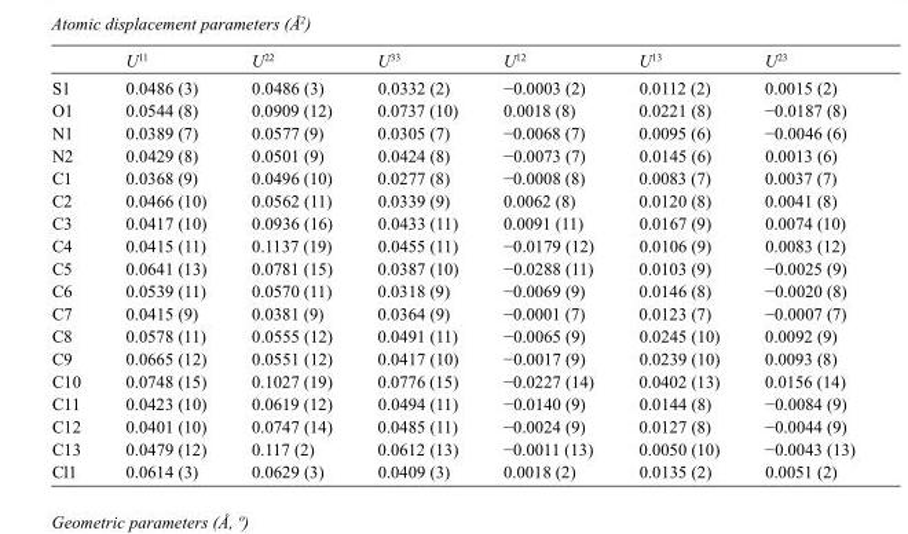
<table><thead><tr><td></td><td>U<sup>11</sup></td><td>U<sup>22</sup></td><td>U<sup>33</sup></td><td>U<sup>12</sup></td><td>U<sup>13</sup></td><td>U<sup>23</sup></td></tr></thead><tbody><tr><td>S1</td><td>0.0486 (3)</td><td>0.0486 (3)</td><td>0.0332 (2)</td><td>−0.0003 (2)</td><td>0.0112 (2)</td><td>0.0015 (2)</td></tr><tr><td>O1</td><td>0.0544 (8)</td><td>0.0909 (12)</td><td>0.0737 (10)</td><td>0.0018 (8)</td><td>0.0221 (8)</td><td>−0.0187 (8)</td></tr><tr><td>N1</td><td>0.0389 (7)</td><td>0.0577 (9)</td><td>0.0305 (7)</td><td>−0.0068 (7)</td><td>0.0095 (6)</td><td>−0.0046 (6)</td></tr><tr><td>N2</td><td>0.0429 (8)</td><td>0.0501 (9)</td><td>0.0424 (8)</td><td>−0.0073 (7)</td><td>0.0145 (6)</td><td>0.0013 (6)</td></tr><tr><td>C1</td><td>0.0368 (9)</td><td>0.0496 (10)</td><td>0.0277 (8)</td><td>−0.0008 (8)</td><td>0.0083 (7)</td><td>0.0037 (7)</td></tr><tr><td>C2</td><td>0.0466 (10)</td><td>0.0562 (11)</td><td>0.0339 (9)</td><td>0.0062 (8)</td><td>0.0120 (8)</td><td>0.0041 (8)</td></tr><tr><td>C3</td><td>0.0417 (10)</td><td>0.0936 (16)</td><td>0.0433 (11)</td><td>0.0091 (11)</td><td>0.0167 (9)</td><td>0.0074 (10)</td></tr><tr><td>C4</td><td>0.0415 (11)</td><td>0.1137 (19)</td><td>0.0455 (11)</td><td>−0.0179 (12)</td><td>0.0106 (9)</td><td>0.0083 (12)</td></tr><tr><td>C5</td><td>0.0641 (13)</td><td>0.0781 (15)</td><td>0.0387 (10)</td><td>−0.0288 (11)</td><td>0.0103 (9)</td><td>−0.0025 (9)</td></tr><tr><td>C6</td><td>0.0539 (11)</td><td>0.0570 (11)</td><td>0.0318 (9)</td><td>−0.0069 (9)</td><td>0.0146 (8)</td><td>−0.0020 (8)</td></tr><tr><td>C7</td><td>0.0415 (9)</td><td>0.0381 (9)</td><td>0.0364 (9)</td><td>−0.0001 (7)</td><td>0.0123 (7)</td><td>−0.0007 (7)</td></tr><tr><td>C8</td><td>0.0578 (11)</td><td>0.0555 (12)</td><td>0.0491 (11)</td><td>−0.0065 (9)</td><td>0.0245 (10)</td><td>0.0092 (9)</td></tr><tr><td>C9</td><td>0.0665 (12)</td><td>0.0551 (12)</td><td>0.0417 (10)</td><td>−0.0017 (9)</td><td>0.0239 (10)</td><td>0.0093 (8)</td></tr><tr><td>C10</td><td>0.0748 (15)</td><td>0.1027 (19)</td><td>0.0776 (15)</td><td>−0.0227 (14)</td><td>0.0402 (13)</td><td>0.0156 (14)</td></tr><tr><td>C11</td><td>0.0423 (10)</td><td>0.0619 (12)</td><td>0.0494 (11)</td><td>−0.0140 (9)</td><td>0.0144 (8)</td><td>−0.0084 (9)</td></tr><tr><td>C12</td><td>0.0401 (10)</td><td>0.0747 (14)</td><td>0.0485 (11)</td><td>−0.0024 (9)</td><td>0.0127 (8)</td><td>−0.0044 (9)</td></tr><tr><td>C13</td><td>0.0479 (12)</td><td>0.117 (2)</td><td>0.0612 (13)</td><td>−0.0011 (13)</td><td>0.0050 (10)</td><td>−0.0043 (13)</td></tr><tr><td>Cl1</td><td>0.0614 (3)</td><td>0.0629 (3)</td><td>0.0409 (3)</td><td>0.0018 (2)</td><td>0.0135 (2)</td><td>0.0051 (2)</td></tr></tbody></table>